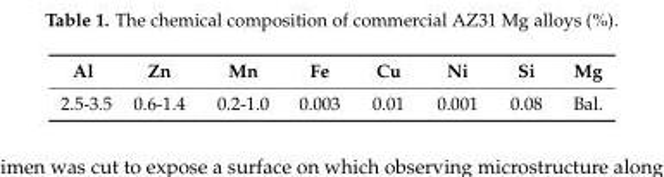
<table><thead><tr><td>Al</td><td>Zn</td><td>Mn</td><td>Fe</td><td>Cu</td><td>Ni</td><td>Si</td><td>Mg</td></tr></thead><tbody><tr><td>2.5-3.5</td><td>0.6-1.4</td><td>0.2-1.0</td><td>0.003</td><td>0.01</td><td>0.001</td><td>0.08</td><td>Bal.</td></tr></tbody></table>